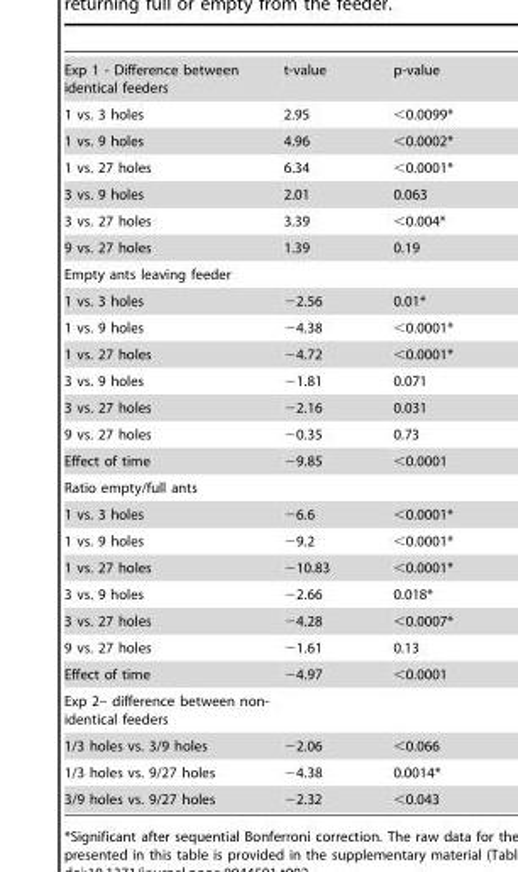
<table><tbody><tr><td>Exp 1 - Difference between identical feeders</td><td>t-value</td><td>p-value</td></tr><tr><td>1 vs. 3 holes</td><td>2.95</td><td>&lt;0.0099*</td></tr><tr><td>1 vs. 9 holes</td><td>4.96</td><td>&lt;0.0002*</td></tr><tr><td>1 vs. 27 holes</td><td>6.34</td><td>&lt;0.0001*</td></tr><tr><td>3 vs. 9 holes</td><td>2.01</td><td>0.063</td></tr><tr><td>3 vs. 27 holes</td><td>3.39</td><td>&lt;0.004*</td></tr><tr><td>9 vs. 27 holes</td><td>1.39</td><td>0.19</td></tr><tr><td colspan="3">Empty ants leaving feeder</td></tr><tr><td>1 vs. 3 holes</td><td>−2.56</td><td>0.01*</td></tr><tr><td>1 vs. 9 holes</td><td>−4.38</td><td>&lt;0.0001*</td></tr><tr><td>1 vs. 27 holes</td><td>−4.72</td><td>&lt;0.0001*</td></tr><tr><td>3 vs. 9 holes</td><td>−1.81</td><td>0.071</td></tr><tr><td>3 vs. 27 holes</td><td>−2.16</td><td>0.031</td></tr><tr><td>9 vs. 27 holes</td><td>−0.35</td><td>0.73</td></tr><tr><td>Effect of time</td><td>−9.85</td><td>&lt;0.0001</td></tr><tr><td colspan="3">Ratio empty/full ants</td></tr><tr><td>1 vs. 3 holes</td><td>−6.6</td><td>&lt;0.0001*</td></tr><tr><td>1 vs. 9 holes</td><td>−9.2</td><td>&lt;0.0001*</td></tr><tr><td>1 vs. 27 holes</td><td>−10.83</td><td>&lt;0.0001*</td></tr><tr><td>3 vs. 9 holes</td><td>−2.66</td><td>0.018*</td></tr><tr><td>3 vs. 27 holes</td><td>−4.28</td><td>&lt;0.0007*</td></tr><tr><td>9 vs. 27 holes</td><td>−1.61</td><td>0.13</td></tr><tr><td>Effect of time</td><td>−4.97</td><td>&lt;0.0001</td></tr><tr><td colspan="3">Exp 2– difference between non- identical feeders</td></tr><tr><td>1/3 holes vs. 3/9 holes</td><td>−2.06</td><td>&lt;0.066</td></tr><tr><td>1/3 holes vs. 9/27 holes</td><td>−4.38</td><td>0.0014*</td></tr><tr><td>3/9 holes vs. 9/27 holes</td><td>−2.32</td><td>&lt;0.043</td></tr></tbody></table>